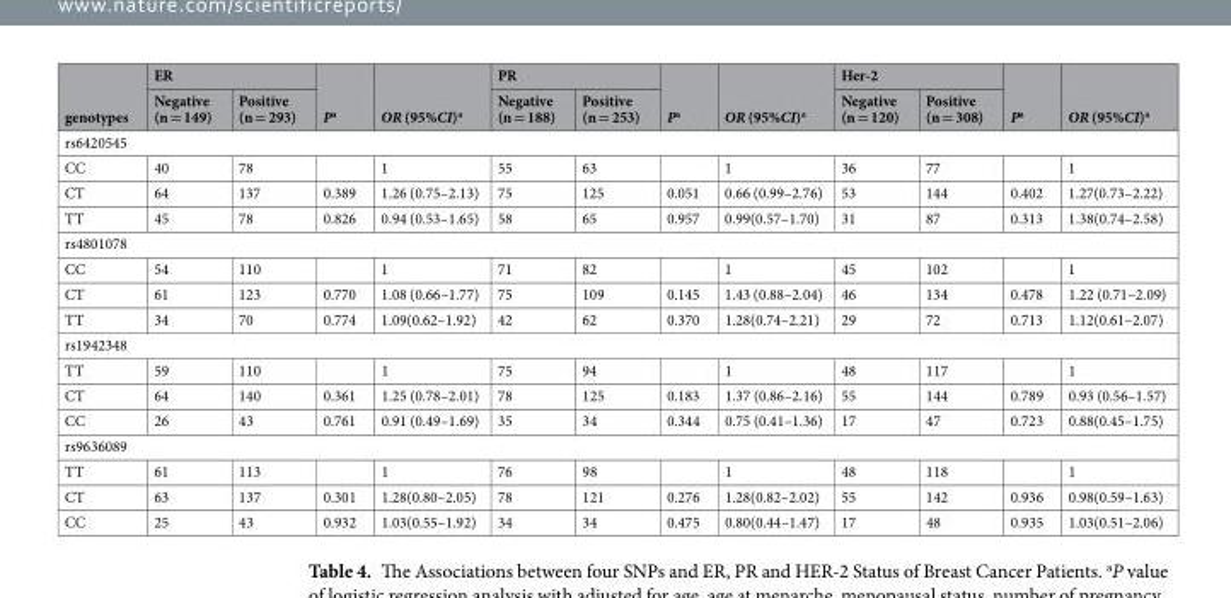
<table><thead><tr><td rowspan="2">genotypes</td><td colspan="2">ER</td><td rowspan="2">P<sup>a</sup></td><td rowspan="2">OR (95%CI)<sup>a</sup></td><td colspan="2">PR</td><td rowspan="2">P<sup>a</sup></td><td rowspan="2">OR (95%CI)<sup>a</sup></td><td colspan="2">Her-2</td><td rowspan="2">P<sup>a</sup></td><td rowspan="2">OR (95%CI)<sup>a</sup></td></tr><tr><td>Negative (n = 149)</td><td>Positive (n = 293)</td><td>Negative (n = 188)</td><td>Positive (n = 253)</td><td>Negative (n = 120)</td><td>Positive (n = 308)</td></tr></thead><tbody><tr><td colspan="13">rs6420545</td></tr><tr><td>CC</td><td>40</td><td>78</td><td></td><td>1</td><td>55</td><td>63</td><td></td><td>1</td><td>36</td><td>77</td><td></td><td>1</td></tr><tr><td>CT</td><td>64</td><td>137</td><td>0.389</td><td>1.26 (0.75–2.13)</td><td>75</td><td>125</td><td>0.051</td><td>0.66 (0.99–2.76)</td><td>53</td><td>144</td><td>0.402</td><td>1.27(0.73–2.22)</td></tr><tr><td>TT</td><td>45</td><td>78</td><td>0.826</td><td>0.94 (0.53–1.65)</td><td>58</td><td>65</td><td>0.957</td><td>0.99(0.57–1.70)</td><td>31</td><td>87</td><td>0.313</td><td>1.38(0.74–2.58)</td></tr><tr><td colspan="13">rs4801078</td></tr><tr><td>CC</td><td>54</td><td>110</td><td></td><td>1</td><td>71</td><td>82</td><td></td><td>1</td><td>45</td><td>102</td><td></td><td>1</td></tr><tr><td>CT</td><td>61</td><td>123</td><td>0.770</td><td>1.08 (0.66–1.77)</td><td>75</td><td>109</td><td>0.145</td><td>1.43 (0.88–2.04)</td><td>46</td><td>134</td><td>0.478</td><td>1.22 (0.71–2.09)</td></tr><tr><td>TT</td><td>34</td><td>70</td><td>0.774</td><td>1.09(0.62–1.92)</td><td>42</td><td>62</td><td>0.370</td><td>1.28(0.74–2.21)</td><td>29</td><td>72</td><td>0.713</td><td>1.12(0.61–2.07)</td></tr><tr><td colspan="13">rs1942348</td></tr><tr><td>TT</td><td>59</td><td>110</td><td></td><td>1</td><td>75</td><td>94</td><td></td><td>1</td><td>48</td><td>117</td><td></td><td>1</td></tr><tr><td>CT</td><td>64</td><td>140</td><td>0.361</td><td>1.25 (0.78–2.01)</td><td>78</td><td>125</td><td>0.183</td><td>1.37 (0.86–2.16)</td><td>55</td><td>144</td><td>0.789</td><td>0.93 (0.56–1.57)</td></tr><tr><td>CC</td><td>26</td><td>43</td><td>0.761</td><td>0.91 (0.49–1.69)</td><td>35</td><td>34</td><td>0.344</td><td>0.75 (0.41–1.36)</td><td>17</td><td>47</td><td>0.723</td><td>0.88(0.45–1.75)</td></tr><tr><td colspan="13">rs9636089</td></tr><tr><td>TT</td><td>61</td><td>113</td><td></td><td>1</td><td>76</td><td>98</td><td></td><td>1</td><td>48</td><td>118</td><td></td><td>1</td></tr><tr><td>CT</td><td>63</td><td>137</td><td>0.301</td><td>1.28(0.80–2.05)</td><td>78</td><td>121</td><td>0.276</td><td>1.28(0.82–2.02)</td><td>55</td><td>142</td><td>0.936</td><td>0.98(0.59–1.63)</td></tr><tr><td>CC</td><td>25</td><td>43</td><td>0.932</td><td>1.03(0.55–1.92)</td><td>34</td><td>34</td><td>0.475</td><td>0.80(0.44–1.47)</td><td>17</td><td>48</td><td>0.935</td><td>1.03(0.51–2.06)</td></tr></tbody></table>